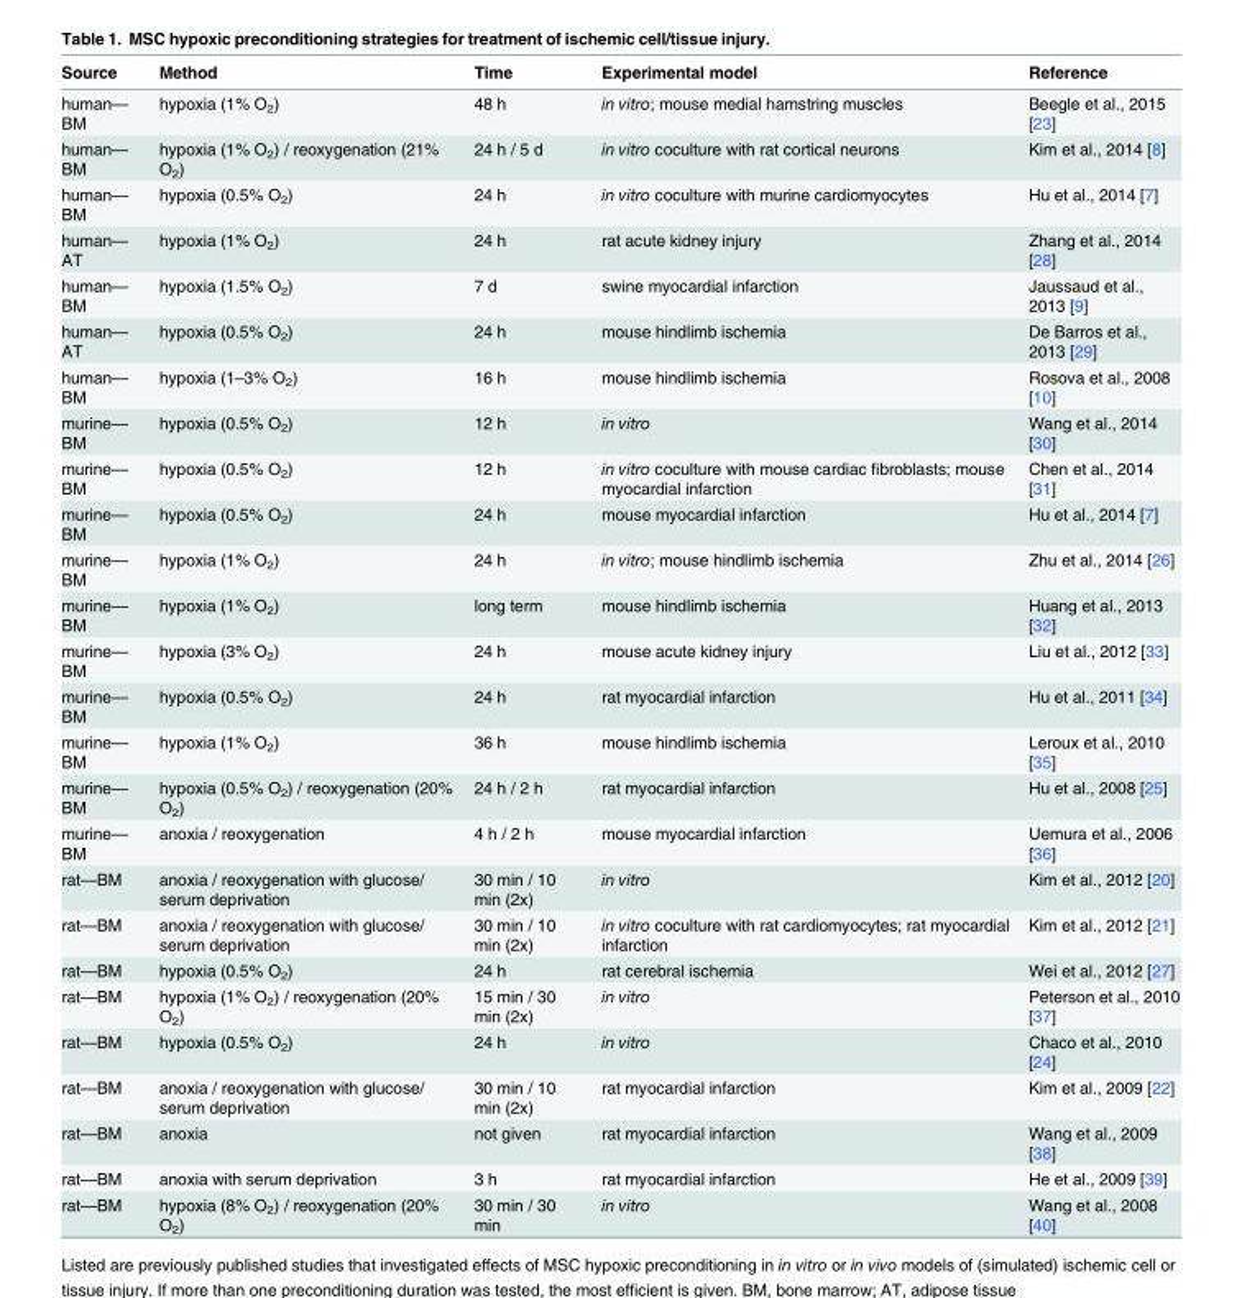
<table><thead><tr><td>Source</td><td>Method</td><td>Time</td><td>Experimental model</td><td>Reference</td></tr></thead><tbody><tr><td>human— BM</td><td>hypoxia (1% O<sub>2</sub>)</td><td>48 h</td><td>in vitro; mouse medial hamstring muscles</td><td>Beegle et al., 2015 [23]</td></tr><tr><td>human— BM</td><td>hypoxia (1% O<sub>2</sub>) / reoxygenation (21% O<sub>2</sub>)</td><td>24 h / 5 d</td><td>in vitro coculture with rat cortical neurons</td><td>Kim et al., 2014 [8]</td></tr><tr><td>human— BM</td><td>hypoxia (0.5% O<sub>2</sub>)</td><td>24 h</td><td>in vitro coculture with murine cardiomyocytes</td><td>Hu et al., 2014 [7]</td></tr><tr><td>human— AT</td><td>hypoxia (1% O<sub>2</sub>)</td><td>24 h</td><td>rat acute kidney injury</td><td>Zhang et al., 2014 [28]</td></tr><tr><td>human— BM</td><td>hypoxia (1.5% O<sub>2</sub>)</td><td>7 d</td><td>swine myocardial infarction</td><td>Jaussaud et al., 2013 [9]</td></tr><tr><td>human— AT</td><td>hypoxia (0.5% O<sub>2</sub>)</td><td>24 h</td><td>mouse hindlimb ischemia</td><td>De Barros et al., 2013 [29]</td></tr><tr><td>human— BM</td><td>hypoxia (1–3% O<sub>2</sub>)</td><td>16 h</td><td>mouse hindlimb ischemia</td><td>Rosova et al., 2008 [10]</td></tr><tr><td>murine— BM</td><td>hypoxia (0.5% O<sub>2</sub>)</td><td>12 h</td><td>in vitro</td><td>Wang et al., 2014 [30]</td></tr><tr><td>murine— BM</td><td>hypoxia (0.5% O<sub>2</sub>)</td><td>12 h</td><td>in vitro coculture with mouse cardiac fibroblasts; mouse myocardial infarction</td><td>Chen et al., 2014 [31]</td></tr><tr><td>murine— BM</td><td>hypoxia (0.5% O<sub>2</sub>)</td><td>24 h</td><td>mouse myocardial infarction</td><td>Hu et al., 2014 [7]</td></tr><tr><td>murine— BM</td><td>hypoxia (1% O<sub>2</sub>)</td><td>24 h</td><td>in vitro; mouse hindlimb ischemia</td><td>Zhu et al., 2014 [26]</td></tr><tr><td>murine— BM</td><td>hypoxia (1% O<sub>2</sub>)</td><td>long term</td><td>mouse hindlimb ischemia</td><td>Huang et al., 2013 [32]</td></tr><tr><td>murine— BM</td><td>hypoxia (3% O<sub>2</sub>)</td><td>24 h</td><td>mouse acute kidney injury</td><td>Liu et al., 2012 [33]</td></tr><tr><td>murine— BM</td><td>hypoxia (0.5% O<sub>2</sub>)</td><td>24 h</td><td>rat myocardial infarction</td><td>Hu et al., 2011 [34]</td></tr><tr><td>murine— BM</td><td>hypoxia (1% O<sub>2</sub>)</td><td>36 h</td><td>mouse hindlimb ischemia</td><td>Leroux et al., 2010 [35]</td></tr><tr><td>murine— BM</td><td>hypoxia (0.5% O<sub>2</sub>) / reoxygenation (20% O<sub>2</sub>)</td><td>24 h / 2 h</td><td>rat myocardial infarction</td><td>Hu et al., 2008 [25]</td></tr><tr><td>murine— BM</td><td>anoxia / reoxygenation</td><td>4 h / 2 h</td><td>mouse myocardial infarction</td><td>Uemura et al., 2006 [36]</td></tr><tr><td>rat—BM</td><td>anoxia / reoxygenation with glucose/ serum deprivation</td><td>30 min / 10 min (2x)</td><td>in vitro</td><td>Kim et al., 2012 [20]</td></tr><tr><td>rat—BM</td><td>anoxia / reoxygenation with glucose/ serum deprivation</td><td>30 min / 10 min (2x)</td><td>in vitro coculture with rat cardiomyocytes; rat myocardial infarction</td><td>Kim et al., 2012 [21]</td></tr><tr><td>rat—BM</td><td>hypoxia (0.5% O<sub>2</sub>)</td><td>24 h</td><td>rat cerebral ischemia</td><td>Wei et al., 2012 [27]</td></tr><tr><td>rat—BM</td><td>hypoxia (1% O<sub>2</sub>) / reoxygenation (20% O<sub>2</sub>)</td><td>15 min / 30 min (2x)</td><td>in vitro</td><td>Peterson et al., 2010 [37]</td></tr><tr><td>rat—BM</td><td>hypoxia (0.5% O<sub>2</sub>)</td><td>24 h</td><td>in vitro</td><td>Chaco et al., 2010 [24]</td></tr><tr><td>rat—BM</td><td>anoxia / reoxygenation with glucose/ serum deprivation</td><td>30 min / 10 min (2x)</td><td>rat myocardial infarction</td><td>Kim et al., 2009 [22]</td></tr><tr><td>rat—BM</td><td>anoxia</td><td>not given</td><td>rat myocardial infarction</td><td>Wang et al., 2009 [38]</td></tr><tr><td>rat—BM</td><td>anoxia with serum deprivation</td><td>3 h</td><td>rat myocardial infarction</td><td>He et al., 2009 [39]</td></tr><tr><td>rat—BM</td><td>hypoxia (8% O<sub>2</sub>) / reoxygenation (20% O<sub>2</sub>)</td><td>30 min / 30 min</td><td>in vitro</td><td>Wang et al., 2008 [40]</td></tr></tbody></table>